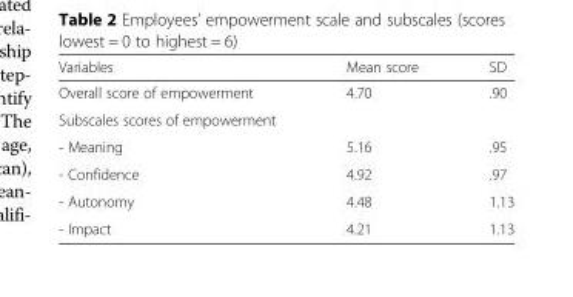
<table><thead><tr><td>Variables</td><td>Mean score</td><td>SD</td></tr></thead><tbody><tr><td>Overall score of empowerment</td><td>4.70</td><td>.90</td></tr><tr><td colspan="3">Subscales scores of empowerment</td></tr><tr><td>- Meaning</td><td>5.16</td><td>.95</td></tr><tr><td>- Confidence</td><td>4.92</td><td>.97</td></tr><tr><td>- Autonomy</td><td>4.48</td><td>1.13</td></tr><tr><td>- Impact</td><td>4.21</td><td>1.13</td></tr></tbody></table>